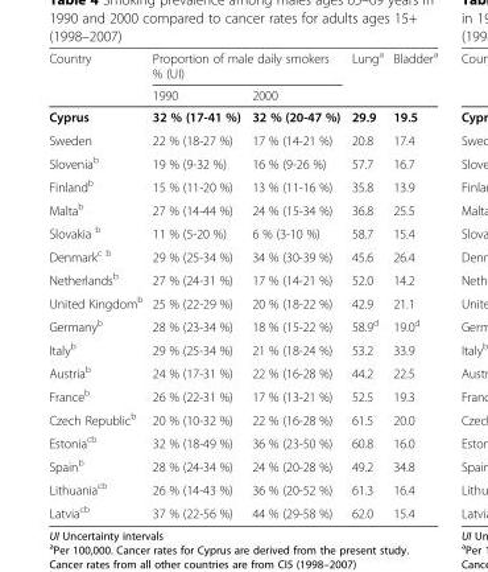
<table><thead><tr><td rowspan="2">Country</td><td colspan="2">Proportion of male daily smokers % (UI)</td><td rowspan="2">Lung<sup>a</sup></td><td rowspan="2">Bladder<sup>a</sup></td></tr><tr><td>1990</td><td>2000</td></tr></thead><tbody><tr><td>Cyprus</td><td>32 % (17-41 %)</td><td>32 % (20-47 %)</td><td>29.9</td><td>19.5</td></tr><tr><td>Sweden</td><td>22 % (18-27 %)</td><td>17 % (14-21 %)</td><td>20.8</td><td>17.4</td></tr><tr><td>Slovenia<sup>b</sup></td><td>19 % (9-32 %)</td><td>16 % (9-26 %)</td><td>57.7</td><td>16.7</td></tr><tr><td>Finland<sup>b</sup></td><td>15 % (11-20 %)</td><td>13 % (11-16 %)</td><td>35.8</td><td>13.9</td></tr><tr><td>Malta<sup>b</sup></td><td>27 % (14-44 %)</td><td>24 % (15-34 %)</td><td>36.8</td><td>25.5</td></tr><tr><td>Slovakia <sup>b</sup></td><td>11 % (5-20 %)</td><td>6 % (3-10 %)</td><td>58.7</td><td>15.4</td></tr><tr><td>Denmark<sup>c b</sup></td><td>29 % (25-34 %)</td><td>34 % (30-39 %)</td><td>45.6</td><td>26.4</td></tr><tr><td>Netherlands<sup>b</sup></td><td>27 % (24-31 %)</td><td>17 % (14-21 %)</td><td>52.0</td><td>14.2</td></tr><tr><td>United Kingdom<sup>b</sup></td><td>25 % (22-29 %)</td><td>20 % (18-22 %)</td><td>42.9</td><td>21.1</td></tr><tr><td>Germany<sup>b</sup></td><td>28 % (23-34 %)</td><td>18 % (15-22 %)</td><td>58.9<sup>d</sup></td><td>19.0<sup>d</sup></td></tr><tr><td>Italy<sup>b</sup></td><td>29 % (25-34 %)</td><td>21 % (18-24 %)</td><td>53.2</td><td>33.9</td></tr><tr><td>Austria<sup>b</sup></td><td>24 % (17-31 %)</td><td>22 % (16-28 %)</td><td>44.2</td><td>22.5</td></tr><tr><td>France<sup>b</sup></td><td>26 % (22-31 %)</td><td>17 % (13-21 %)</td><td>52.5</td><td>19.3</td></tr><tr><td>Czech Republic<sup>b</sup></td><td>20 % (10-32 %)</td><td>22 % (16-28 %)</td><td>61.5</td><td>20.0</td></tr><tr><td>Estonia<sup>cb</sup></td><td>32 % (18-49 %)</td><td>36 % (23-50 %)</td><td>60.8</td><td>16.0</td></tr><tr><td>Spain<sup>b</sup></td><td>28 % (24-34 %)</td><td>24 % (20-28 %)</td><td>49.2</td><td>34.8</td></tr><tr><td>Lithuania<sup>cb</sup></td><td>26 % (14-43 %)</td><td>36 % (20-52 %)</td><td>61.3</td><td>16.4</td></tr><tr><td>Latvia<sup>cb</sup></td><td>37 % (22-56 %)</td><td>44 % (29-58 %)</td><td>62.0</td><td>15.4</td></tr></tbody></table>